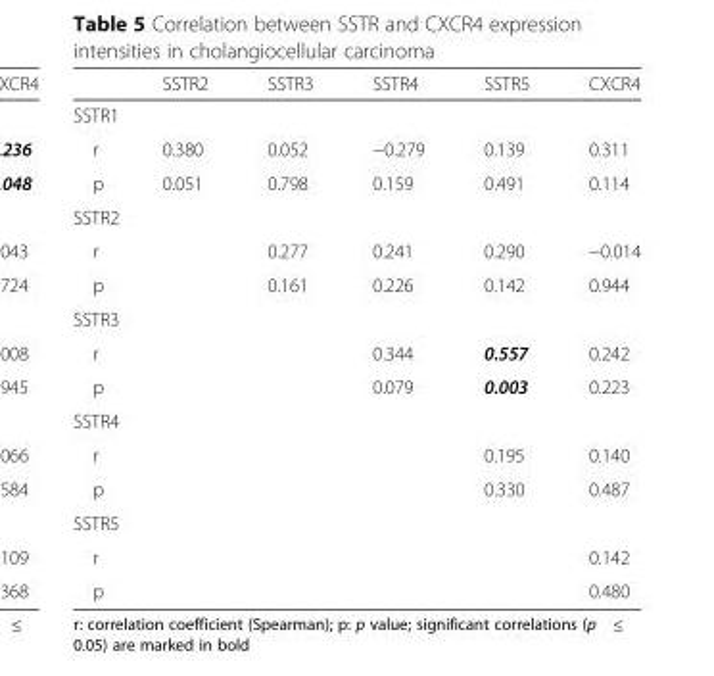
<table><thead><tr><td></td><td>SSTR2</td><td>SSTR3</td><td>SSTR4</td><td>SSTR5</td><td>CXCR4</td></tr></thead><tbody><tr><td colspan="6">SSTR1</td></tr><tr><td>r</td><td>0.380</td><td>0.052</td><td>−0.279</td><td>0.139</td><td>0.311</td></tr><tr><td>p</td><td>0.051</td><td>0.798</td><td>0.159</td><td>0.491</td><td>0.114</td></tr><tr><td colspan="6">SSTR2</td></tr><tr><td>r</td><td></td><td>0.277</td><td>0.241</td><td>0.290</td><td>−0.014</td></tr><tr><td>p</td><td></td><td>0.161</td><td>0.226</td><td>0.142</td><td>0.944</td></tr><tr><td colspan="6">SSTR3</td></tr><tr><td>r</td><td></td><td></td><td>0.344</td><td>0.557</td><td>0.242</td></tr><tr><td>p</td><td></td><td></td><td>0.079</td><td>0.003</td><td>0.223</td></tr><tr><td colspan="6">SSTR4</td></tr><tr><td>r</td><td></td><td></td><td></td><td>0.195</td><td>0.140</td></tr><tr><td>p</td><td></td><td></td><td></td><td>0.330</td><td>0.487</td></tr><tr><td colspan="6">SSTR5</td></tr><tr><td>r</td><td></td><td></td><td></td><td></td><td>0.142</td></tr><tr><td>p</td><td></td><td></td><td></td><td></td><td>0.480</td></tr></tbody></table>